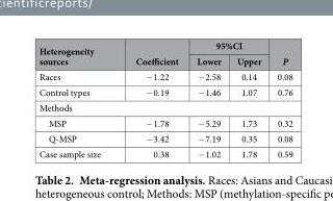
<table><thead><tr><td rowspan="2">Heterogeneity sources</td><td rowspan="2">Coefficient</td><td colspan="2">95%CI</td><td rowspan="2">P</td></tr><tr><td>Lower</td><td>Upper</td></tr></thead><tbody><tr><td>Races</td><td>− 1.22</td><td>− 2.58</td><td>0.14</td><td>0.08</td></tr><tr><td>Control types</td><td>− 0.19</td><td>− 1.46</td><td>1.07</td><td>0.76</td></tr><tr><td colspan="5">Methods</td></tr><tr><td>MSP</td><td>− 1.78</td><td>− 5.29</td><td>1.73</td><td>0.32</td></tr><tr><td>Q-MSP</td><td>− 3.42</td><td>− 7.19</td><td>0.35</td><td>0.08</td></tr><tr><td>Case sample size</td><td>0.38</td><td>− 1.02</td><td>1.78</td><td>0.59</td></tr></tbody></table>